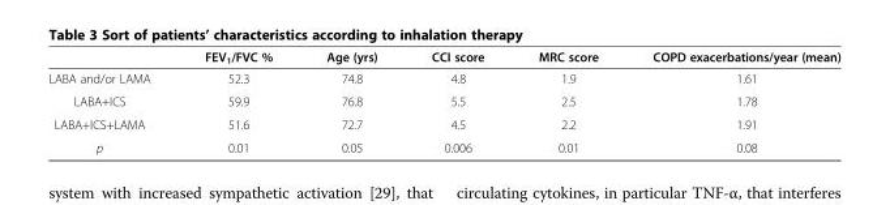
<table><thead><tr><td></td><td>FEV<sub>1</sub>/FVC %</td><td>Age (yrs)</td><td>CCI score</td><td>MRC score</td><td>COPD exacerbations/year (mean)</td></tr></thead><tbody><tr><td>LABA and/or LAMA</td><td>52.3</td><td>74.8</td><td>4.8</td><td>1.9</td><td>1.61</td></tr><tr><td>LABA+ICS</td><td>59.9</td><td>76.8</td><td>5.5</td><td>2.5</td><td>1.78</td></tr><tr><td>LABA+ICS+LAMA</td><td>51.6</td><td>72.7</td><td>4.5</td><td>2.2</td><td>1.91</td></tr><tr><td>p</td><td>0.01</td><td>0.05</td><td>0.006</td><td>0.01</td><td>0.08</td></tr></tbody></table>